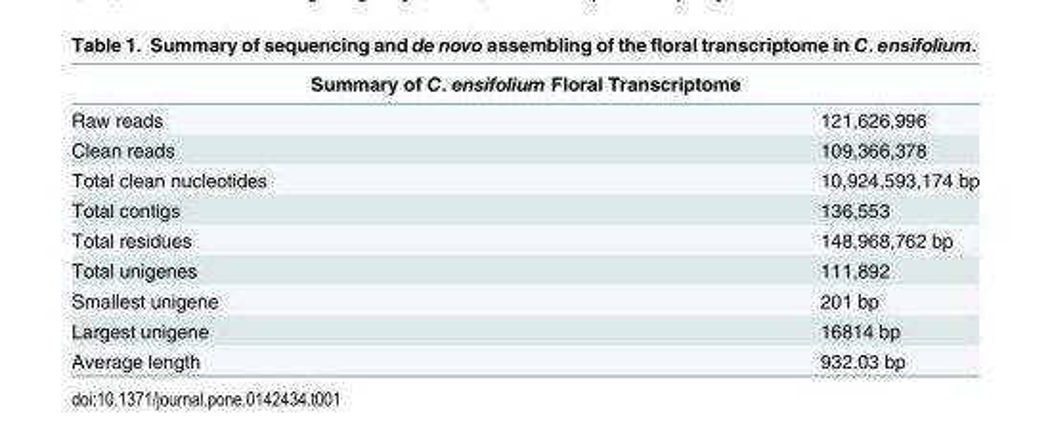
<table><thead><tr><td colspan="2">Summary of C. ensifolium Floral Transcriptome</td></tr><tr><td>Raw reads</td><td>121,626,996</td></tr></thead><tbody><tr><td>Clean reads</td><td>109,366,378</td></tr><tr><td>Total clean nucleotides</td><td>10,924,593,174 bp</td></tr><tr><td>Total contigs</td><td>136,553</td></tr><tr><td>Total residues</td><td>148,968,762 bp</td></tr><tr><td>Total unigenes</td><td>111,892</td></tr><tr><td>Smallest unigene</td><td>201 bp</td></tr><tr><td>Largest unigene</td><td>16814 bp</td></tr><tr><td>Average length</td><td>932.03 bp</td></tr></tbody></table>